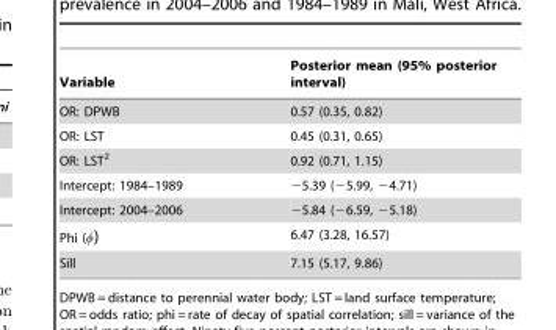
<table><thead><tr><td>Variable</td><td>Posterior mean (95% posterior interval)</td></tr></thead><tbody><tr><td>OR: DPWB</td><td>0.57 (0.35, 0.82)</td></tr><tr><td>OR: LST</td><td>0.45 (0.31, 0.65)</td></tr><tr><td>OR: LST<sup>2</sup></td><td>0.92 (0.71, 1.15)</td></tr><tr><td>Intercept: 1984–1989</td><td>−5.39 (−5.99, −4.71)</td></tr><tr><td>Intercept: 2004–2006</td><td>−5.84 (−6.59, −5.18)</td></tr><tr><td>Phi (w)</td><td>6.47 (3.28, 16.57)</td></tr><tr><td>Sill</td><td>7.15 (5.17, 9.86)</td></tr></tbody></table>